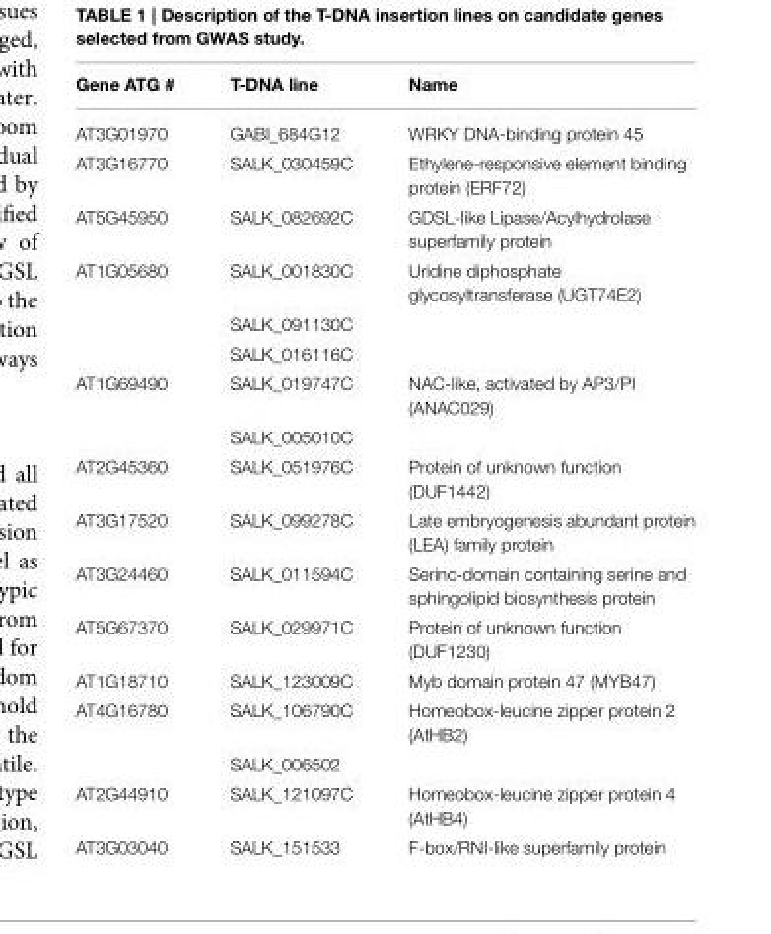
<table><thead><tr><td>Gene ATG #</td><td>T-DNA line</td><td>Name</td></tr></thead><tbody><tr><td>AT3G01970</td><td>GABI_684G12</td><td>WRKY DNA-binding protein 45</td></tr><tr><td>AT3G16770</td><td>SALK_030459C</td><td>Ethylene-responsive element binding protein (ERF72)</td></tr><tr><td>AT5G45950</td><td>SALK_082692C</td><td>GDSL-like Lipase/Acylhydrolase superfamily protein</td></tr><tr><td rowspan="3">AT1G05680</td><td>SALK_001830C</td><td>Uridine diphosphate glycosyltransferase (UGT74E2)</td></tr><tr><td>SALK_091130C</td><td></td></tr><tr><td>SALK_016116C</td><td></td></tr><tr><td rowspan="2">AT1G69490</td><td>SALK_019747C</td><td>NAC-like, activated by AP3/PI (ANAC029)</td></tr><tr><td>SALK_005010C</td><td></td></tr><tr><td>AT2G45360</td><td>SALK_051976C</td><td>Protein of unknown function (DUF1442)</td></tr><tr><td>AT3G17520</td><td>SALK_099278C</td><td>Late embryogenesis abundant protein (LEA) family protein</td></tr><tr><td>AT3G24460</td><td>SALK_011594C</td><td>Serinc-domain containing serine and sphingolipid biosynthesis protein</td></tr><tr><td>AT5G67370</td><td>SALK_029971C</td><td>Protein of unknown function (DUF1230)</td></tr><tr><td>AT1G18710</td><td>SALK_123009C</td><td>Myb domain protein 47 (MYB47)</td></tr><tr><td rowspan="2">AT4G16780</td><td>SALK_106790C</td><td>Homeobox-leucine zipper protein 2 (AtHB2)</td></tr><tr><td>SALK_006502</td><td></td></tr><tr><td>AT2G44910</td><td>SALK_121097C</td><td>Homeobox-leucine zipper protein 4 (AtHB4)</td></tr><tr><td>AT3G03040</td><td>SALK_151533</td><td>F-box/RNI-like superfamily protein</td></tr></tbody></table>